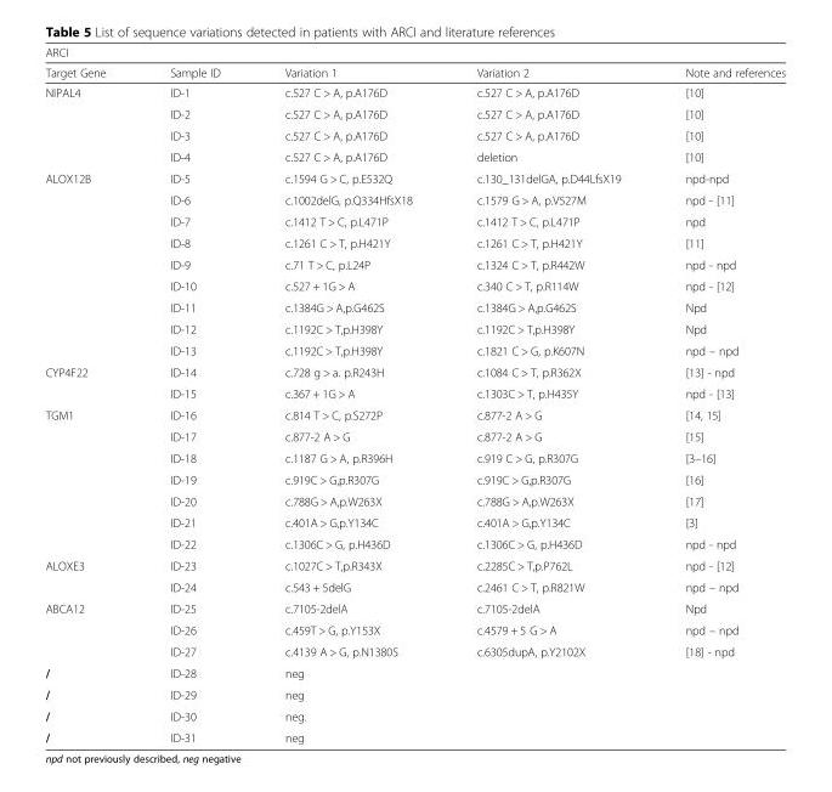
<table><thead><tr><td colspan="5">ARCI</td></tr><tr><td>Target Gene</td><td>Sample ID</td><td>Variation 1</td><td>Variation 2</td><td>Note and references</td></tr></thead><tbody><tr><td rowspan="4">NIPAL4</td><td>ID-1</td><td>c.527 C &gt; A, p.A176D</td><td>c.527 C &gt; A, p.A176D</td><td>[10]</td></tr><tr><td>ID-2</td><td>c.527 C &gt; A, p.A176D</td><td>c.527 C &gt; A, p.A176D</td><td>[10]</td></tr><tr><td>ID-3</td><td>c.527 C &gt; A, p.A176D</td><td>c.527 C &gt; A, p.A176D</td><td>[10]</td></tr><tr><td>ID-4</td><td>c.527 C &gt; A, p.A176D</td><td>deletion</td><td>[10]</td></tr><tr><td rowspan="9">ALOX12B</td><td>ID-5</td><td>c.1594 G &gt; C, p.E532Q</td><td>c.130_131delGA, p.D44LfsX19</td><td>npd-npd</td></tr><tr><td>ID-6</td><td>c.1002delG, p.Q334HfsX18</td><td>c.1579 G &gt; A, p.V527M</td><td>npd - [11]</td></tr><tr><td>ID-7</td><td>c.1412 T &gt; C, p.L471P</td><td>c.1412 T &gt; C, p.L471P</td><td>npd</td></tr><tr><td>ID-8</td><td>c.1261 C &gt; T, p.H421Y</td><td>c.1261 C &gt; T, p.H421Y</td><td>[11]</td></tr><tr><td>ID-9</td><td>c.71 T &gt; C, p.L24P</td><td>c.1324 C &gt; T, p.R442W</td><td>npd - npd</td></tr><tr><td>ID-10</td><td>c.527 + 1G &gt; A</td><td>c.340 C &gt; T, p.R114W</td><td>npd - [12]</td></tr><tr><td>ID-11</td><td>c.1384G &gt; A,p.G462S</td><td>c.1384G &gt; A,p.G462S</td><td>Npd</td></tr><tr><td>ID-12</td><td>c.1192C &gt; T,p.H398Y</td><td>c.1192C &gt; T,p.H398Y</td><td>Npd</td></tr><tr><td>ID-13</td><td>c.1192C &gt; T,p.H398Y</td><td>c.1821 C &gt; G, p.K607N</td><td>npd – npd</td></tr><tr><td rowspan="2">CYP4F22</td><td>ID-14</td><td>c.728 g &gt; a. p.R243H</td><td>c.1084 C &gt; T, p.R362X</td><td>[13] - npd</td></tr><tr><td>ID-15</td><td>c.367 + 1G &gt; A</td><td>c.1303C &gt; T, p.H435Y</td><td>npd - [13]</td></tr><tr><td rowspan="7">TGM1</td><td>ID-16</td><td>c.814 T &gt; C, p.S272P</td><td>c.877-2 A &gt; G</td><td>[14, 15]</td></tr><tr><td>ID-17</td><td>c.877-2 A &gt; G</td><td>c.877-2 A &gt; G</td><td>[15]</td></tr><tr><td>ID-18</td><td>c.1187 G &gt; A, p.R396H</td><td>c.919 C &gt; G, p.R307G</td><td>[3–16]</td></tr><tr><td>ID-19</td><td>c.919C &gt; G,p.R307G</td><td>c.919C &gt; G,p.R307G</td><td>[16]</td></tr><tr><td>ID-20</td><td>c.788G &gt; A,p.W263X</td><td>c.788G &gt; A,p.W263X</td><td>[17]</td></tr><tr><td>ID-21</td><td>c.401A &gt; G,p.Y134C</td><td>c.401A &gt; G,p.Y134C</td><td>[3]</td></tr><tr><td>ID-22</td><td>c.1306C &gt; G, p.H436D</td><td>c.1306C &gt; G, p.H436D</td><td>npd - npd</td></tr><tr><td rowspan="2">ALOXE3</td><td>ID-23</td><td>c.1027C &gt; T,p.R343X</td><td>c.2285C &gt; T,p.P762L</td><td>npd - [12]</td></tr><tr><td>ID-24</td><td>c.543 + 5delG</td><td>c.2461 C &gt; T, p.R821W</td><td>npd – npd</td></tr><tr><td rowspan="3">ABCA12</td><td>ID-25</td><td>c.7105-2delA</td><td>c.7105-2delA</td><td>Npd</td></tr><tr><td>ID-26</td><td>c.459T &gt; G, p.Y153X</td><td>c.4579 + 5 G &gt; A</td><td>npd – npd</td></tr><tr><td>ID-27</td><td>c.4139 A &gt; G, p.N1380S</td><td>c.6305dupA, p.Y2102X</td><td>[18] - npd</td></tr><tr><td>/</td><td>ID-28</td><td>neg</td><td></td><td></td></tr><tr><td>/</td><td>ID-29</td><td>neg</td><td></td><td></td></tr><tr><td>/</td><td>ID-30</td><td>neg.</td><td></td><td></td></tr><tr><td>/</td><td>ID-31</td><td>neg</td><td></td><td></td></tr></tbody></table>